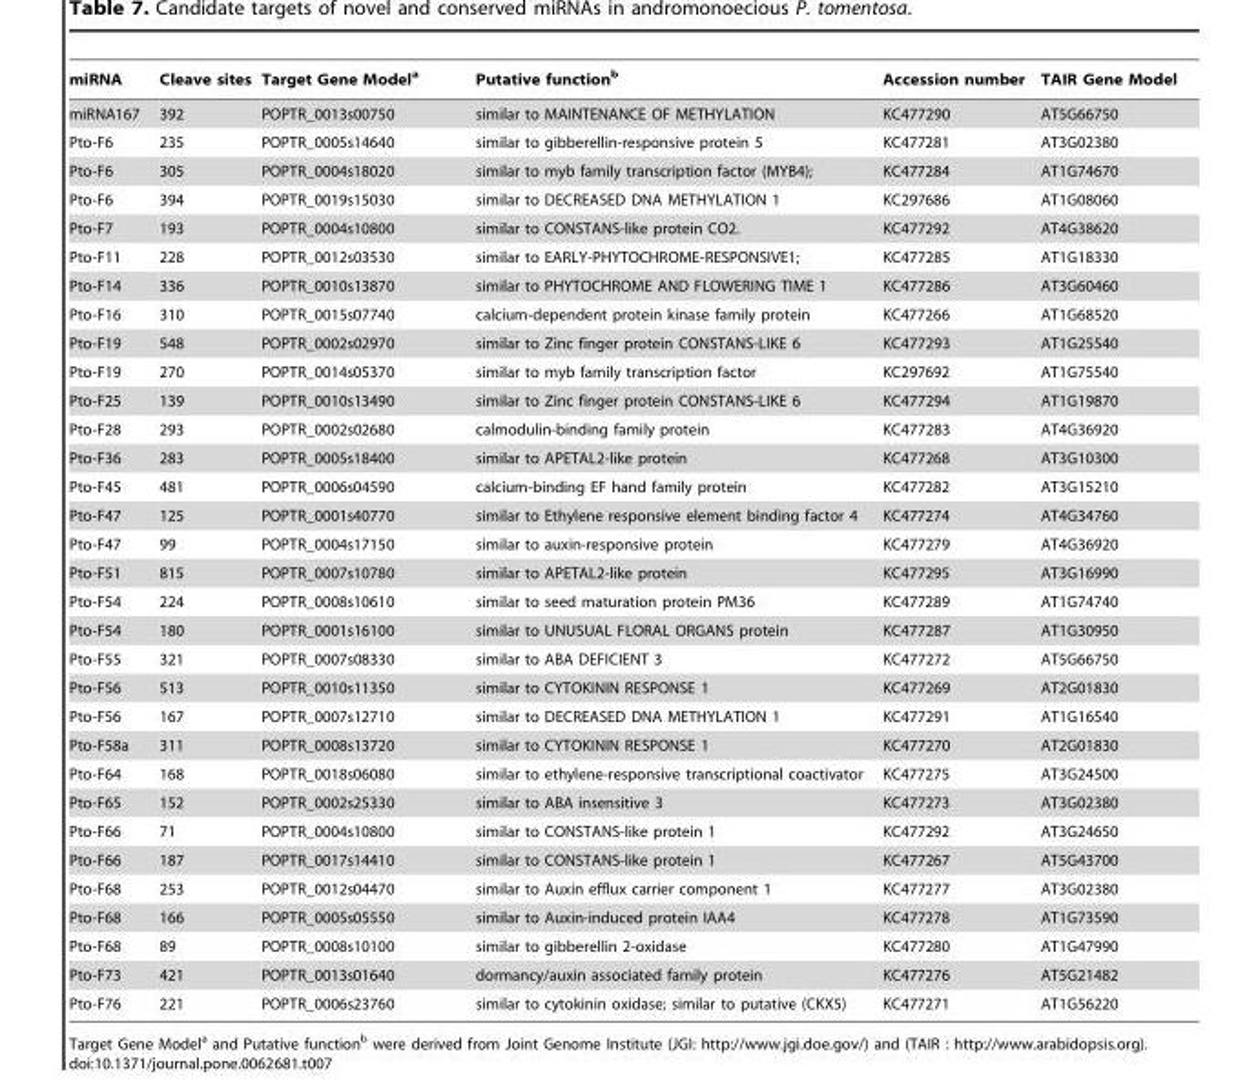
<table><thead><tr><td>miRNA</td><td>Cleave sites</td><td>Target Gene Model<sup>a</sup></td><td>Putative function<sup>b</sup></td><td>Accession number</td><td>TAIR Gene Model</td></tr></thead><tbody><tr><td>miRNA167</td><td>392</td><td>POPTR_0013s00750</td><td>similar to MAINTENANCE OF METHYLATION</td><td>KC477290</td><td>AT5G66750</td></tr><tr><td>Pto-F6</td><td>235</td><td>POPTR_0005s14640</td><td>similar to gibberellin-responsive protein 5</td><td>KC477281</td><td>AT3G02380</td></tr><tr><td>Pto-F6</td><td>305</td><td>POPTR_0004s18020</td><td>similar to myb family transcription factor (MYB4);</td><td>KC477284</td><td>AT1G74670</td></tr><tr><td>Pto-F6</td><td>394</td><td>POPTR_0019s15030</td><td>similar to DECREASED DNA METHYLATION 1</td><td>KC297686</td><td>AT1G08060</td></tr><tr><td>Pto-F7</td><td>193</td><td>POPTR_0004s10800</td><td>similar to CONSTANS-like protein CO2.</td><td>KC477292</td><td>AT4G38620</td></tr><tr><td>Pto-F11</td><td>228</td><td>POPTR_0012s03530</td><td>similar to EARLY-PHYTOCHROME-RESPONSIVE1;</td><td>KC477285</td><td>AT1G18330</td></tr><tr><td>Pto-F14</td><td>336</td><td>POPTR_0010s13870</td><td>similar to PHYTOCHROME AND FLOWERING TIME 1</td><td>KC477286</td><td>AT3G60460</td></tr><tr><td>Pto-F16</td><td>310</td><td>POPTR_0015s07740</td><td>calcium-dependent protein kinase family protein</td><td>KC477266</td><td>AT1G68520</td></tr><tr><td>Pto-F19</td><td>548</td><td>POPTR_0002s02970</td><td>similar to Zinc finger protein CONSTANS-LIKE 6</td><td>KC477293</td><td>AT1G25540</td></tr><tr><td>Pto-F19</td><td>270</td><td>POPTR_0014s05370</td><td>similar to myb family transcription factor</td><td>KC297692</td><td>AT1G75540</td></tr><tr><td>Pto-F25</td><td>139</td><td>POPTR_0010s13490</td><td>similar to Zinc finger protein CONSTANS-LIKE 6</td><td>KC477294</td><td>AT1G19870</td></tr><tr><td>Pto-F28</td><td>293</td><td>POPTR_0002s02680</td><td>calmodulin-binding family protein</td><td>KC477283</td><td>AT4G36920</td></tr><tr><td>Pto-F36</td><td>283</td><td>POPTR_0005s18400</td><td>similar to APETAL2-like protein</td><td>KC477268</td><td>AT3G10300</td></tr><tr><td>Pto-F45</td><td>481</td><td>POPTR_0006s04590</td><td>calcium-binding EF hand family protein</td><td>KC477282</td><td>AT3G15210</td></tr><tr><td>Pto-F47</td><td>125</td><td>POPTR_0001s40770</td><td>similar to Ethylene responsive element binding factor 4</td><td>KC477274</td><td>AT4G34760</td></tr><tr><td>Pto-F47</td><td>99</td><td>POPTR_0004s17150</td><td>similar to auxin-responsive protein</td><td>KC477279</td><td>AT4G36920</td></tr><tr><td>Pto-F51</td><td>815</td><td>POPTR_0007s10780</td><td>similar to APETAL2-like protein</td><td>KC477295</td><td>AT3G16990</td></tr><tr><td>Pto-F54</td><td>224</td><td>POPTR_0008s10610</td><td>similar to seed maturation protein PM36</td><td>KC477289</td><td>AT1G74740</td></tr><tr><td>Pto-F54</td><td>180</td><td>POPTR_0001s16100</td><td>similar to UNUSUAL FLORAL ORGANS protein</td><td>KC477287</td><td>AT1G30950</td></tr><tr><td>Pto-F55</td><td>321</td><td>POPTR_0007s08330</td><td>similar to ABA DEFICIENT 3</td><td>KC477272</td><td>AT5G66750</td></tr><tr><td>Pto-F56</td><td>513</td><td>POPTR_0010s11350</td><td>similar to CYTOKININ RESPONSE 1</td><td>KC477269</td><td>AT2G01830</td></tr><tr><td>Pto-F56</td><td>167</td><td>POPTR_0007s12710</td><td>similar to DECREASED DNA METHYLATION 1</td><td>KC477291</td><td>AT1G16540</td></tr><tr><td>Pto-F58a</td><td>311</td><td>POPTR_0008s13720</td><td>similar to CYTOKININ RESPONSE 1</td><td>KC477270</td><td>AT2G01830</td></tr><tr><td>Pto-F64</td><td>168</td><td>POPTR_0018s06080</td><td>similar to ethylene-responsive transcriptional coactivator</td><td>KC477275</td><td>AT3G24500</td></tr><tr><td>Pto-F65</td><td>152</td><td>POPTR_0002s25330</td><td>similar to ABA insensitive 3</td><td>KC477273</td><td>AT3G02380</td></tr><tr><td>Pto-F66</td><td>71</td><td>POPTR_0004s10800</td><td>similar to CONSTANS-like protein 1</td><td>KC477292</td><td>AT3G24650</td></tr><tr><td>Pto-F66</td><td>187</td><td>POPTR_0017s14410</td><td>similar to CONSTANS-like protein 1</td><td>KC477267</td><td>AT5G43700</td></tr><tr><td>Pto-F68</td><td>253</td><td>POPTR_0012s04470</td><td>similar to Auxin efflux carrier component 1</td><td>KC477277</td><td>AT3G02380</td></tr><tr><td>Pto-F68</td><td>166</td><td>POPTR_0005s05550</td><td>similar to Auxin-induced protein IAA4</td><td>KC477278</td><td>AT1G73590</td></tr><tr><td>Pto-F68</td><td>89</td><td>POPTR_0008s10100</td><td>similar to gibberellin 2-oxidase</td><td>KC477280</td><td>AT1G47990</td></tr><tr><td>Pto-F73</td><td>421</td><td>POPTR_0013s01640</td><td>dormancy/auxin associated family protein</td><td>KC477276</td><td>AT5G21482</td></tr><tr><td>Pto-F76</td><td>221</td><td>POPTR_0006s23760</td><td>similar to cytokinin oxidase; similar to putative (CKX5)</td><td>KC477271</td><td>AT1G56220</td></tr></tbody></table>